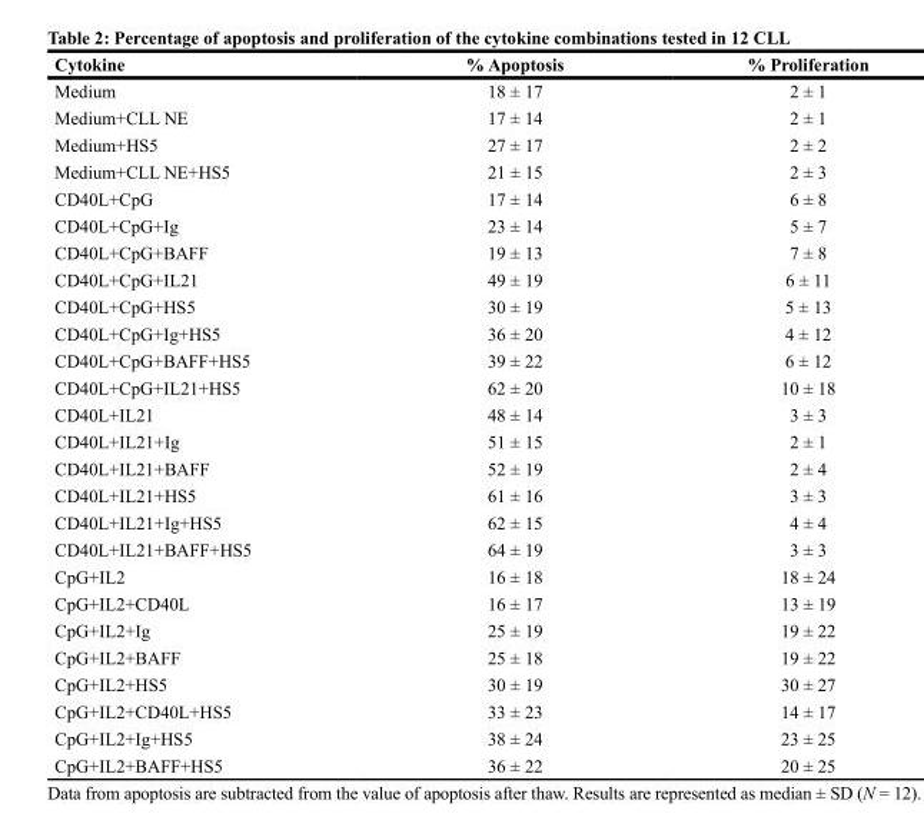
<table><thead><tr><td>Cytokine</td><td>% Apoptosis</td><td>% Proliferation</td></tr></thead><tbody><tr><td>Medium</td><td>18 ± 17</td><td>2 ± 1</td></tr><tr><td>Medium+CLL NE</td><td>17 ± 14</td><td>2 ± 1</td></tr><tr><td>Medium+HS5</td><td>27 ± 17</td><td>2 ± 2</td></tr><tr><td>Medium+CLL NE+HS5</td><td>21 ± 15</td><td>2 ± 3</td></tr><tr><td>CD40L+CpG</td><td>17 ± 14</td><td>6 ± 8</td></tr><tr><td>CD40L+CpG+Ig</td><td>23 ± 14</td><td>5 ± 7</td></tr><tr><td>CD40L+CpG+BAFF</td><td>19 ± 13</td><td>7 ± 8</td></tr><tr><td>CD40L+CpG+IL21</td><td>49 ± 19</td><td>6 ± 11</td></tr><tr><td>CD40L+CpG+HS5</td><td>30 ± 19</td><td>5 ± 13</td></tr><tr><td>CD40L+CpG+Ig+HS5</td><td>36 ± 20</td><td>4 ± 12</td></tr><tr><td>CD40L+CpG+BAFF+HS5</td><td>39 ± 22</td><td>6 ± 12</td></tr><tr><td>CD40L+CpG+IL21+HS5</td><td>62 ± 20</td><td>10 ± 18</td></tr><tr><td>CD40L+IL21</td><td>48 ± 14</td><td>3 ± 3</td></tr><tr><td>CD40L+IL21+Ig</td><td>51 ± 15</td><td>2 ± 1</td></tr><tr><td>CD40L+IL21+BAFF</td><td>52 ± 19</td><td>2 ± 4</td></tr><tr><td>CD40L+IL21+HS5</td><td>61 ± 16</td><td>3 ± 3</td></tr><tr><td>CD40L+IL21+Ig+HS5</td><td>62 ± 15</td><td>4 ± 4</td></tr><tr><td>CD40L+IL21+BAFF+HS5</td><td>64 ± 19</td><td>3 ± 3</td></tr><tr><td>CpG+IL2</td><td>16 ± 18</td><td>18 ± 24</td></tr><tr><td>CpG+IL2+CD40L</td><td>16 ± 17</td><td>13 ± 19</td></tr><tr><td>CpG+IL2+Ig</td><td>25 ± 19</td><td>19 ± 22</td></tr><tr><td>CpG+IL2+BAFF</td><td>25 ± 18</td><td>19 ± 22</td></tr><tr><td>CpG+IL2+HS5</td><td>30 ± 19</td><td>30 ± 27</td></tr><tr><td>CpG+IL2+CD40L+HS5</td><td>33 ± 23</td><td>14 ± 17</td></tr><tr><td>CpG+IL2+Ig+HS5</td><td>38 ± 24</td><td>23 ± 25</td></tr><tr><td>CpG+IL2+BAFF+HS5</td><td>36 ± 22</td><td>20 ± 25</td></tr></tbody></table>